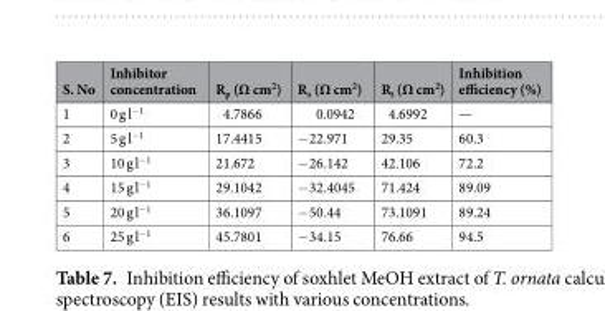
<table><thead><tr><td>S. No</td><td>Inhibitor concentration</td><td>R<sub>p</sub> (Ω cm<sup>2</sup>)</td><td>R<sub>s</sub> (Ω cm<sup>2</sup>)</td><td>R<sub>t</sub> (Ω cm<sup>2</sup>)</td><td>Inhibition efficiency (%)</td></tr></thead><tbody><tr><td>1</td><td>0 g l<sup>−1</sup></td><td>4.7866</td><td>0.0942</td><td>4.6992</td><td>—</td></tr><tr><td>2</td><td>5 g l<sup>−1</sup></td><td>17.4415</td><td>−22.971</td><td>29.35</td><td>60.3</td></tr><tr><td>3</td><td>10 g l<sup>−1</sup></td><td>21.672</td><td>−26.142</td><td>42.106</td><td>72.2</td></tr><tr><td>4</td><td>15 g l<sup>−1</sup></td><td>29.1042</td><td>−32.4045</td><td>71.424</td><td>89.09</td></tr><tr><td>5</td><td>20 g l<sup>−1</sup></td><td>36.1097</td><td>−50.44</td><td>73.1091</td><td>89.24</td></tr><tr><td>6</td><td>25 g l<sup>−1</sup></td><td>45.7801</td><td>−34.15</td><td>76.66</td><td>94.5</td></tr></tbody></table>